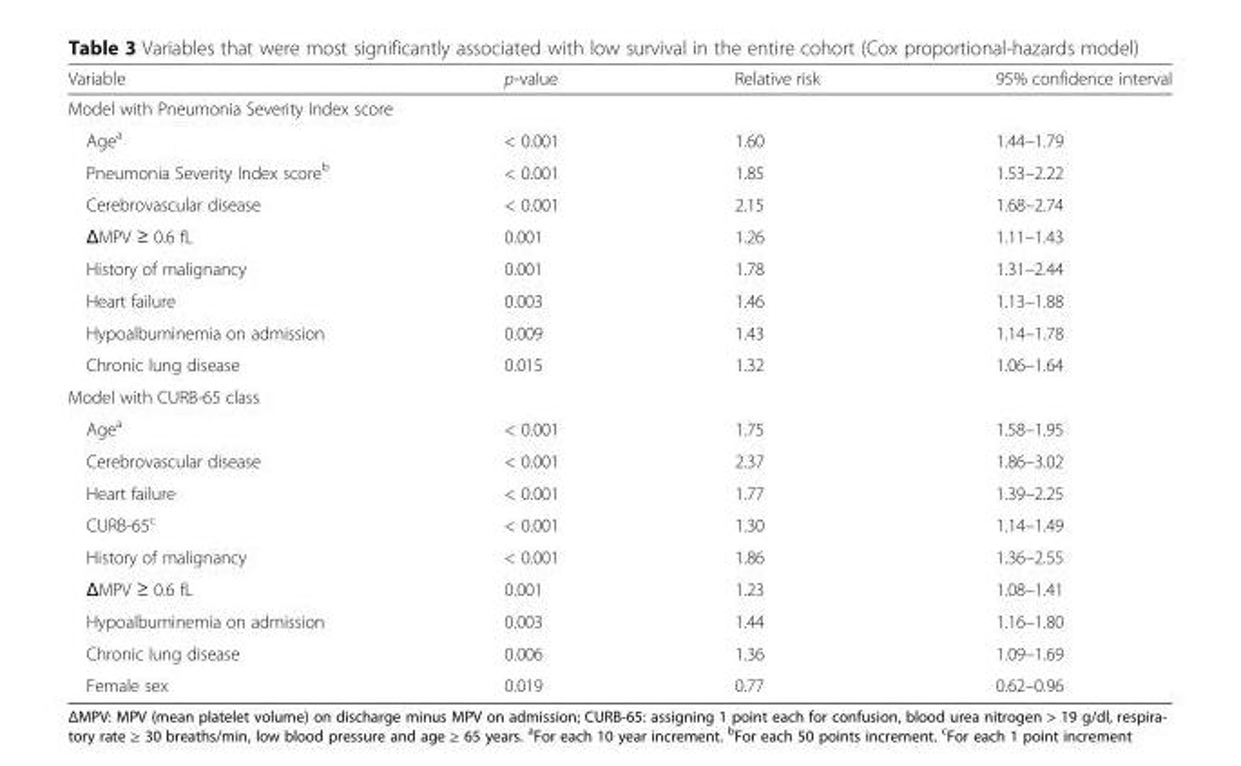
<table><thead><tr><td>Variable</td><td>p-value</td><td>Relative risk</td><td>95% confidence interval</td></tr></thead><tbody><tr><td colspan="4">Model with Pneumonia Severity Index score</td></tr><tr><td>Age<sup>a</sup></td><td>&lt; 0.001</td><td>1.60</td><td>1.44–1.79</td></tr><tr><td>Pneumonia Severity Index score<sup>b</sup></td><td>&lt; 0.001</td><td>1.85</td><td>1.53–2.22</td></tr><tr><td>Cerebrovascular disease</td><td>&lt; 0.001</td><td>2.15</td><td>1.68–2.74</td></tr><tr><td>ΔMPV ≥ 0.6 fL</td><td>0.001</td><td>1.26</td><td>1.11–1.43</td></tr><tr><td>History of malignancy</td><td>0.001</td><td>1.78</td><td>1.31–2.44</td></tr><tr><td>Heart failure</td><td>0.003</td><td>1.46</td><td>1.13–1.88</td></tr><tr><td>Hypoalbuminemia on admission</td><td>0.009</td><td>1.43</td><td>1.14–1.78</td></tr><tr><td>Chronic lung disease</td><td>0.015</td><td>1.32</td><td>1.06–1.64</td></tr><tr><td colspan="4">Model with CURB-65 class</td></tr><tr><td>Age<sup>a</sup></td><td>&lt; 0.001</td><td>1.75</td><td>1.58–1.95</td></tr><tr><td>Cerebrovascular disease</td><td>&lt; 0.001</td><td>2.37</td><td>1.86–3.02</td></tr><tr><td>Heart failure</td><td>&lt; 0.001</td><td>1.77</td><td>1.39–2.25</td></tr><tr><td>CURB-65<sup>c</sup></td><td>&lt; 0.001</td><td>1.30</td><td>1.14–1.49</td></tr><tr><td>History of malignancy</td><td>&lt; 0.001</td><td>1.86</td><td>1.36–2.55</td></tr><tr><td>ΔMPV ≥ 0.6 fL</td><td>0.001</td><td>1.23</td><td>1.08–1.41</td></tr><tr><td>Hypoalbuminemia on admission</td><td>0.003</td><td>1.44</td><td>1.16–1.80</td></tr><tr><td>Chronic lung disease</td><td>0.006</td><td>1.36</td><td>1.09–1.69</td></tr><tr><td>Female sex</td><td>0.019</td><td>0.77</td><td>0.62–0.96</td></tr></tbody></table>